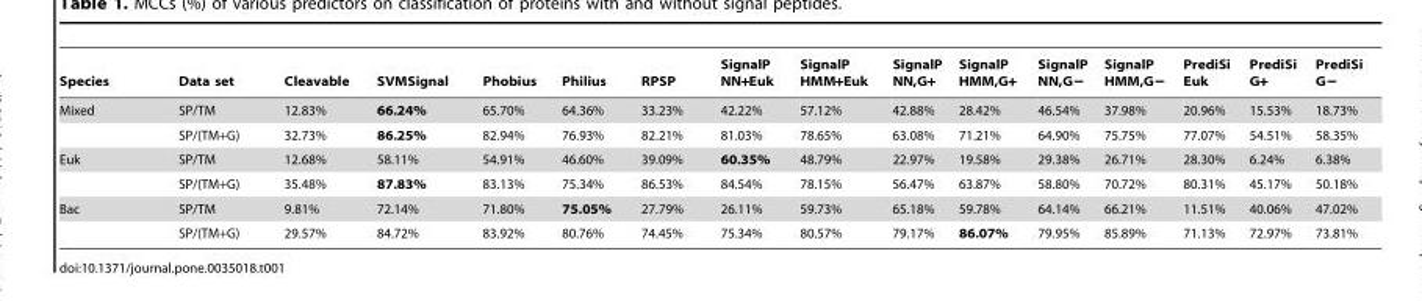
<table><thead><tr><td>Species</td><td>Data set</td><td>Cleavable</td><td>SVMSignal</td><td>Phobius</td><td>Philius</td><td>RPSP</td><td>SignalP NN+Euk</td><td>SignalP HMM+Euk</td><td>SignalP NN,G+</td><td>SignalP HMM,G+</td><td>SignalP NN,G−</td><td>SignalP HMM,G−</td><td>PrediSi Euk</td><td>PrediSi G+</td><td>PrediSi G−</td></tr></thead><tbody><tr><td rowspan="2">Mixed</td><td>SP/TM</td><td>12.83%</td><td>66.24%</td><td>65.70%</td><td>64.36%</td><td>33.23%</td><td>42.22%</td><td>57.12%</td><td>42.88%</td><td>28.42%</td><td>46.54%</td><td>37.98%</td><td>20.96%</td><td>15.53%</td><td>18.73%</td></tr><tr><td>SP/(TM+G)</td><td>32.73%</td><td>86.25%</td><td>82.94%</td><td>76.93%</td><td>82.21%</td><td>81.03%</td><td>78.65%</td><td>63.08%</td><td>71.21%</td><td>64.90%</td><td>75.75%</td><td>77.07%</td><td>54.51%</td><td>58.35%</td></tr><tr><td rowspan="2">Euk</td><td>SP/TM</td><td>12.68%</td><td>58.11%</td><td>54.91%</td><td>46.60%</td><td>39.09%</td><td>60.35%</td><td>48.79%</td><td>22.97%</td><td>19.58%</td><td>29.38%</td><td>26.71%</td><td>28.30%</td><td>6.24%</td><td>6.38%</td></tr><tr><td>SP/(TM+G)</td><td>35.48%</td><td>87.83%</td><td>83.13%</td><td>75.34%</td><td>86.53%</td><td>84.54%</td><td>78.15%</td><td>56.47%</td><td>63.87%</td><td>58.80%</td><td>70.72%</td><td>80.31%</td><td>45.17%</td><td>50.18%</td></tr><tr><td rowspan="2">Bac</td><td>SP/TM</td><td>9.81%</td><td>72.14%</td><td>71.80%</td><td>75.05%</td><td>27.79%</td><td>26.11%</td><td>59.73%</td><td>65.18%</td><td>59.78%</td><td>64.14%</td><td>66.21%</td><td>11.51%</td><td>40.06%</td><td>47.02%</td></tr><tr><td>SP/(TM+G)</td><td>29.57%</td><td>84.72%</td><td>83.92%</td><td>80.76%</td><td>74.45%</td><td>75.34%</td><td>80.57%</td><td>79.17%</td><td>86.07%</td><td>79.95%</td><td>85.89%</td><td>71.13%</td><td>72.97%</td><td>73.81%</td></tr></tbody></table>